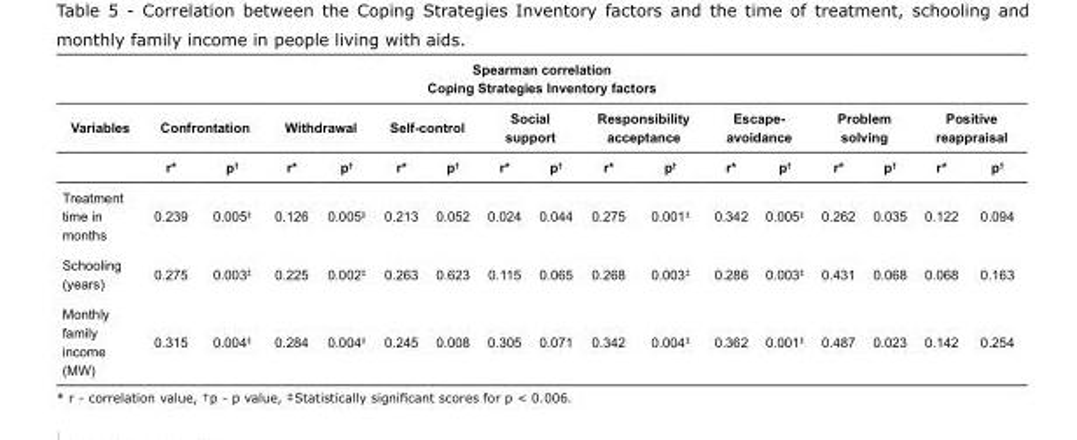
<table><tbody><tr><td colspan="17">Spearman correlation Coping Strategies Inventory factors</td></tr><tr><td rowspan="2">Variables</td><td colspan="2">Confrontation</td><td colspan="2">Withdrawal</td><td colspan="2">Self-control</td><td colspan="2">Social support</td><td colspan="2">Responsibility acceptance</td><td colspan="2">Escape- avoidance</td><td colspan="2">Problem solving</td><td colspan="2">Positive reappraisal</td></tr><tr><td>r*</td><td>p<sup>†</sup></td><td>r*</td><td>p<sup>†</sup></td><td>r*</td><td>p<sup>†</sup></td><td>r*</td><td>p<sup>†</sup></td><td>r*</td><td>p<sup>†</sup></td><td>r*</td><td>p<sup>†</sup></td><td>r*</td><td>p<sup>†</sup></td><td>r*</td><td>p<sup>†</sup></td></tr><tr><td>Treatment time in months</td><td>0.239</td><td>0.005<sup>‡</sup></td><td>0.126</td><td>0.005<sup>‡</sup></td><td>0.213</td><td>0.052</td><td>0.024</td><td>0.044</td><td>0.275</td><td>0.001<sup>‡</sup></td><td>0.342</td><td>0.005<sup>‡</sup></td><td>0.262</td><td>0.035</td><td>0.122</td><td>0.094</td></tr><tr><td>Schooling (years)</td><td>0.275</td><td>0.003<sup>‡</sup></td><td>0.225</td><td>0.002<sup>‡</sup></td><td>0.263</td><td>0.623</td><td>0.115</td><td>0.065</td><td>0.268</td><td>0.003<sup>‡</sup></td><td>0.286</td><td>0.003<sup>‡</sup></td><td>0.431</td><td>0.068</td><td>0.068</td><td>0.163</td></tr><tr><td>Monthly family income (MW)</td><td>0.315</td><td>0.004<sup>‡</sup></td><td>0.284</td><td>0.004<sup>‡</sup></td><td>0.245</td><td>0.008</td><td>0.305</td><td>0.071</td><td>0.342</td><td>0.004<sup>‡</sup></td><td>0.362</td><td>0.001<sup>‡</sup></td><td>0.487</td><td>0.023</td><td>0.142</td><td>0.254</td></tr></tbody></table>